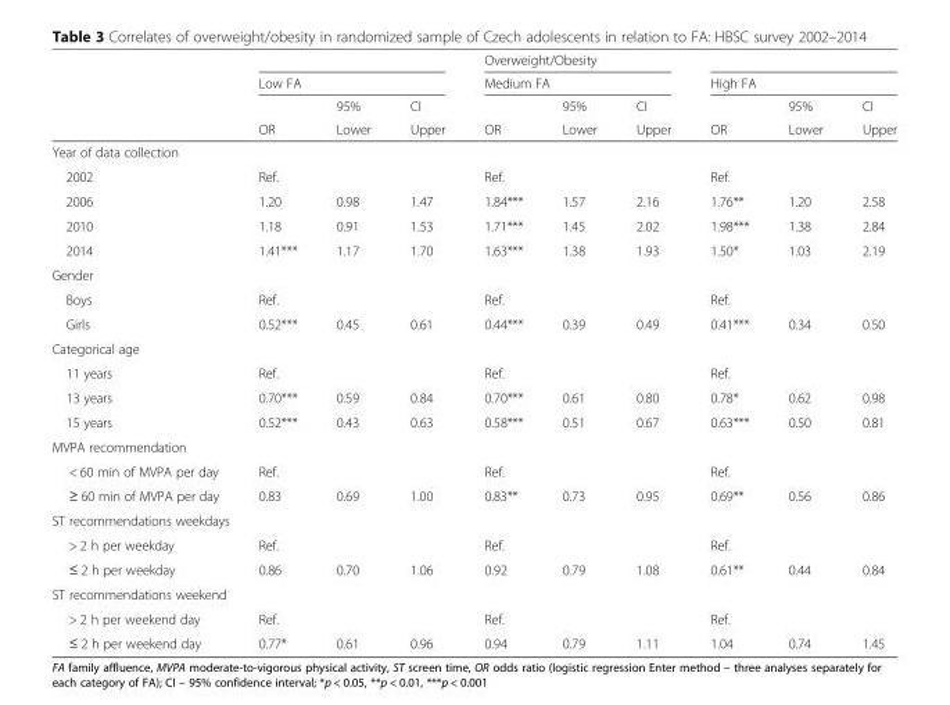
<table><thead><tr><td rowspan="4"></td><td></td><td></td><td></td><td rowspan="2" colspan="3">Overweight/Obesity Medium FA</td><td></td><td></td><td></td></tr><tr><td colspan="3">Low FA</td><td colspan="3">High FA</td></tr><tr><td rowspan="2">OR</td><td rowspan="2">95% Lower</td><td rowspan="2">CI Upper</td><td rowspan="2">OR</td><td rowspan="2">95% Lower</td><td rowspan="2">CI Upper</td><td rowspan="2">OR</td><td rowspan="2">95% Lower</td><td rowspan="2">CI Upper</td></tr><tr></tr></thead><tbody><tr><td colspan="10">Year of data collection</td></tr><tr><td>2002</td><td>Ref.</td><td></td><td></td><td>Ref.</td><td></td><td></td><td>Ref.</td><td></td><td></td></tr><tr><td>2006</td><td>1.20</td><td>0.98</td><td>1.47</td><td>1.84***</td><td>1.57</td><td>2.16</td><td>1.76**</td><td>1.20</td><td>2.58</td></tr><tr><td>2010</td><td>1.18</td><td>0.91</td><td>1.53</td><td>1.71***</td><td>1.45</td><td>2.02</td><td>1.98***</td><td>1.38</td><td>2.84</td></tr><tr><td>2014</td><td>1.41***</td><td>1.17</td><td>1.70</td><td>1.63***</td><td>1.38</td><td>1.93</td><td>1.50*</td><td>1.03</td><td>2.19</td></tr><tr><td colspan="10">Gender</td></tr><tr><td>Boys</td><td>Ref.</td><td></td><td></td><td>Ref.</td><td></td><td></td><td>Ref.</td><td></td><td></td></tr><tr><td>Girls</td><td>0.52***</td><td>0.45</td><td>0.61</td><td>0.44***</td><td>0.39</td><td>0.49</td><td>0.41***</td><td>0.34</td><td>0.50</td></tr><tr><td colspan="10">Categorical age</td></tr><tr><td>11 years</td><td>Ref.</td><td></td><td></td><td>Ref.</td><td></td><td></td><td>Ref.</td><td></td><td></td></tr><tr><td>13 years</td><td>0.70***</td><td>0.59</td><td>0.84</td><td>0.70***</td><td>0.61</td><td>0.80</td><td>0.78*</td><td>0.62</td><td>0.98</td></tr><tr><td>15 years</td><td>0.52***</td><td>0.43</td><td>0.63</td><td>0.58***</td><td>0.51</td><td>0.67</td><td>0.63***</td><td>0.50</td><td>0.81</td></tr><tr><td colspan="10">MVPA recommendation</td></tr><tr><td>&lt; 60 min of MVPA per day</td><td>Ref.</td><td></td><td></td><td>Ref.</td><td></td><td></td><td>Ref.</td><td></td><td></td></tr><tr><td>≥ 60 min of MVPA per day</td><td>0.83</td><td>0.69</td><td>1.00</td><td>0.83**</td><td>0.73</td><td>0.95</td><td>0.69**</td><td>0.56</td><td>0.86</td></tr><tr><td colspan="10">ST recommendations weekdays</td></tr><tr><td>&gt; 2 h per weekday</td><td>Ref.</td><td></td><td></td><td>Ref.</td><td></td><td></td><td>Ref.</td><td></td><td></td></tr><tr><td>≤ 2 h per weekday</td><td>0.86</td><td>0.70</td><td>1.06</td><td>0.92</td><td>0.79</td><td>1.08</td><td>0.61**</td><td>0.44</td><td>0.84</td></tr><tr><td colspan="10">ST recommendations weekend</td></tr><tr><td>&gt; 2 h per weekend day</td><td>Ref.</td><td></td><td></td><td>Ref.</td><td></td><td></td><td>Ref.</td><td></td><td></td></tr><tr><td>≤ 2 h per weekend day</td><td>0.77*</td><td>0.61</td><td>0.96</td><td>0.94</td><td>0.79</td><td>1.11</td><td>1.04</td><td>0.74</td><td>1.45</td></tr></tbody></table>